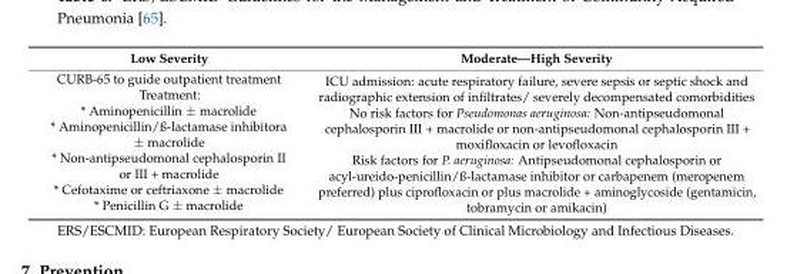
<table><thead><tr><td>Low Severity</td><td>Moderate—High Severity</td></tr></thead><tbody><tr><td>CURB-65 to guide outpatient treatment Treatment: * Aminopenicillin ± macrolide * Aminopenicillin/ß-lactamase inhibitora ± macrolide * Non-antipseudomonal cephalosporin II or III + macrolide * Cefotaxime or ceftriaxone ± macrolide * Penicillin G ± macrolide</td><td>ICU admission: acute respiratory failure, severe sepsis or septic shock and radiographic extension of infiltrates/ severely decompensated comorbidities No risk factors for Pseudomonas aeruginosa: Non-antipseudomonal cephalosporin III + macrolide or non-antipseudomonal cephalosporin III + moxifloxacin or levofloxacin Risk factors for P. aeruginosa: Antipseudomonal cephalosporin or acyl-ureido-penicillin/ß-lactamase inhibitor or carbapenem (meropenem preferred) plus ciprofloxacin or plus macrolide + aminoglycoside (gentamicin, tobramycin or amikacin)</td></tr></tbody></table>